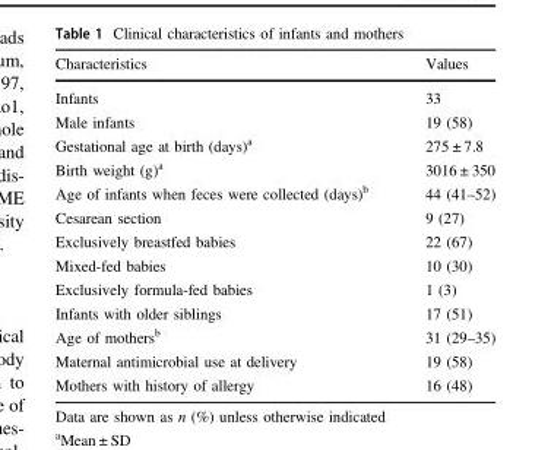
<table><thead><tr><td>Characteristics</td><td>Values</td></tr></thead><tbody><tr><td>Infants</td><td>33</td></tr><tr><td>Male infants</td><td>19 (58)</td></tr><tr><td>Gestational age at birth (days)<sup>a</sup></td><td>275 ± 7.8</td></tr><tr><td>Birth weight (g)<sup>a</sup></td><td>3016 ± 350</td></tr><tr><td>Age of infants when feces were collected (days)<sup>b</sup></td><td>44 (41–52)</td></tr><tr><td>Cesarean section</td><td>9 (27)</td></tr><tr><td>Exclusively breastfed babies</td><td>22 (67)</td></tr><tr><td>Mixed-fed babies</td><td>10 (30)</td></tr><tr><td>Exclusively formula-fed babies</td><td>1 (3)</td></tr><tr><td>Infants with older siblings</td><td>17 (51)</td></tr><tr><td>Age of mothers<sup>b</sup></td><td>31 (29–35)</td></tr><tr><td>Maternal antimicrobial use at delivery</td><td>19 (58)</td></tr><tr><td>Mothers with history of allergy</td><td>16 (48)</td></tr></tbody></table>